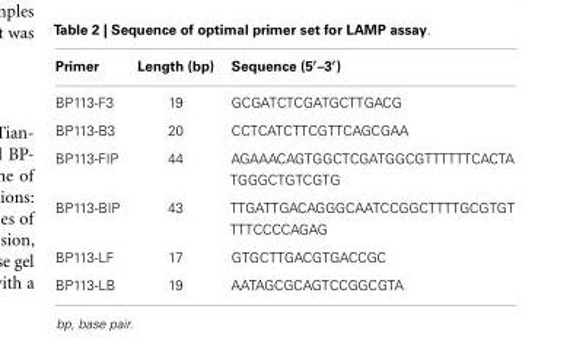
<table><thead><tr><td>Primer</td><td>Length (bp)</td><td>Sequence (5′–3′)</td></tr></thead><tbody><tr><td>BP113-F3</td><td>19</td><td>GCGATCTCGATGCTTGACG</td></tr><tr><td>BP113-B3</td><td>20</td><td>CCTCATCTTCGTTCAGCGAA</td></tr><tr><td>BP113-FIP</td><td>44</td><td>AGAAACAGTGGCTCGATGGCGTTTTTTCACTA TGGGCTGTCGTG</td></tr><tr><td>BP113-BIP</td><td>43</td><td>TTGATTGACAGGGCAATCCGGCTTTTGCGTGT TTTCCCCAGAG</td></tr><tr><td>BP113-LF</td><td>17</td><td>GTGCTTGACGTGACCGC</td></tr><tr><td>BP113-LB</td><td>19</td><td>AATAGCGCAGTCCGGCGTA</td></tr></tbody></table>